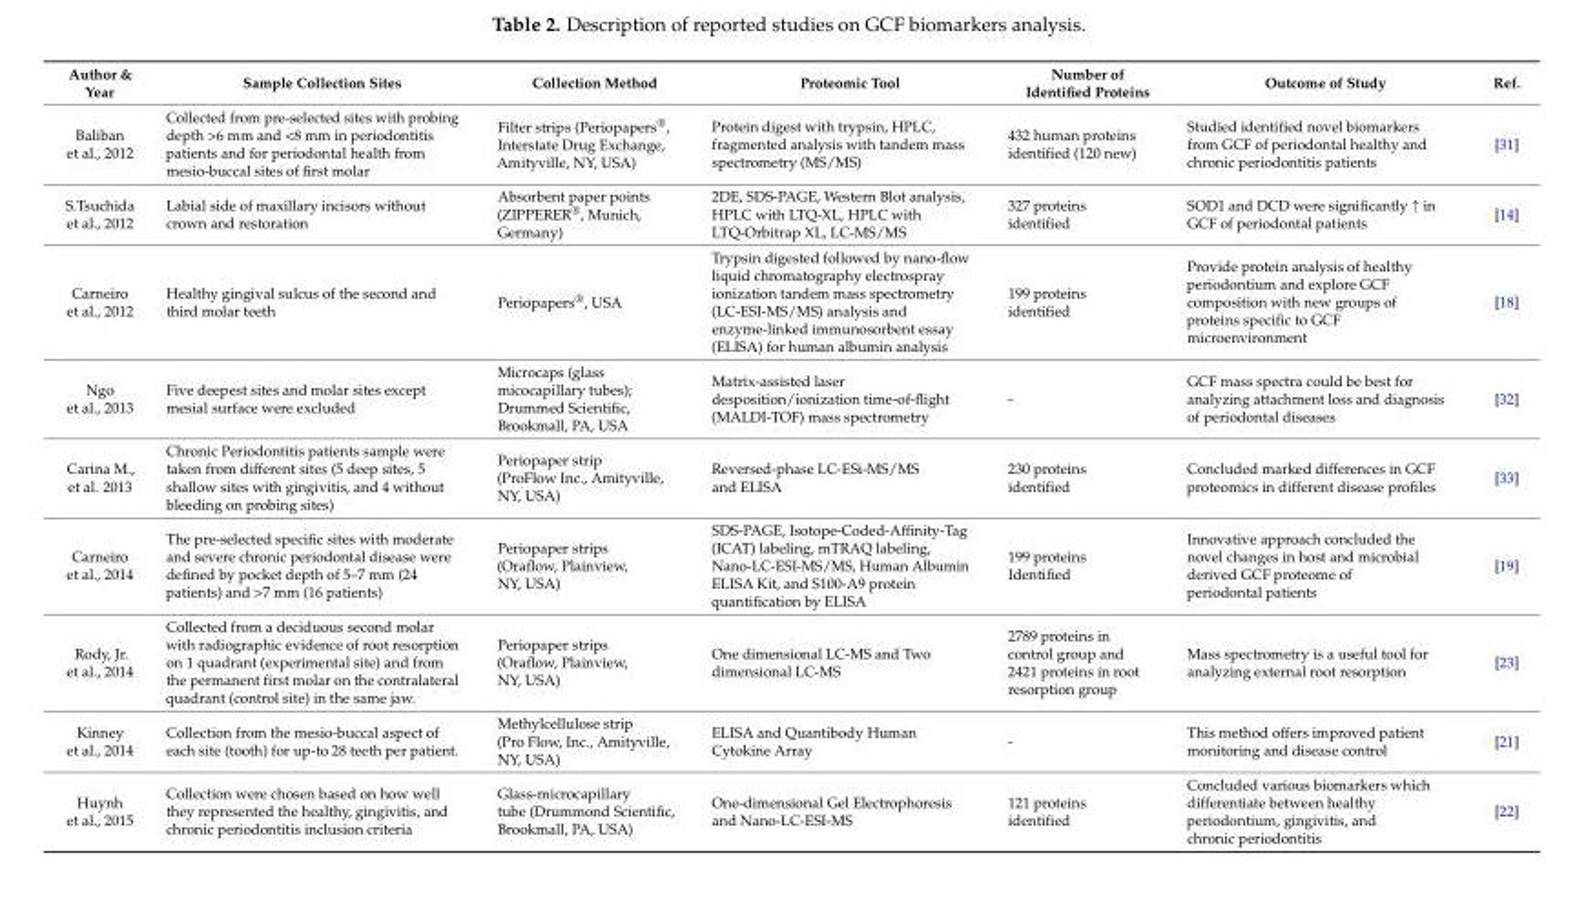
<table><thead><tr><td>Author &amp; Year</td><td>Sample Collection Sites</td><td>Collection Method</td><td>Proteomic Tool</td><td>Number of Identified Proteins</td><td>Outcome of Study</td><td>Ref.</td></tr></thead><tbody><tr><td>Baliban et al., 2012</td><td>Collected from pre-selected sites with probing depth &gt;6 mm and &lt;8 mm in periodontitis patients and for periodontal health from mesio-buccal sites of first molar</td><td>Filter strips (Periopapers<sup>®</sup>, Interstate Drug Exchange, Amityville, NY, USA)</td><td>Protein digest with trypsin, HPLC, fragmented analysis with tandem mass spectrometry (MS/MS)</td><td>432 human proteins identified (120 new)</td><td>Studied identified novel biomarkers from GCF of periodontal healthy and chronic periodontitis patients</td><td>[31]</td></tr><tr><td>S.Tsuchida et al., 2012</td><td>Labial side of maxillary incisors without crown and restoration</td><td>Absorbent paper points (ZIPPERER<sup>®</sup>, Munich, Germany)</td><td>2DE, SDS-PAGE, Western Blot analysis, HPLC with LTQ-XL, HPLC with LTQ-Orbitrap XL, LC-MS/MS</td><td>327 proteins identified</td><td>SOD1 and DCD were significantly ↑ in GCF of periodontal patients</td><td>[14]</td></tr><tr><td>Carneiro et al., 2012</td><td>Healthy gingival sulcus of the second and third molar teeth</td><td>Periopapers<sup>®</sup>, USA</td><td>Trypsin digested followed by nano-flow liquid chromatography electrospray ionization tandem mass spectrometry (LC-ESI-MS/MS) analysis and enzyme-linked immunosorbent essay (ELISA) for human albumin analysis</td><td>199 proteins identified</td><td>Provide protein analysis of healthy periodontium and explore GCF composition with new groups of proteins specific to GCF microenvironment</td><td>[18]</td></tr><tr><td>Ngo et al., 2013</td><td>Five deepest sites and molar sites except mesial surface were excluded</td><td>Microcaps (glass micocapillary tubes); Drummed Scientific, Brookmall, PA, USA</td><td>Matrix-assisted laser desposition/ionization time-of-flight (MALDI-TOF) mass spectrometry</td><td>-</td><td>GCF mass spectra could be best for analyzing attachment loss and diagnosis of periodontal diseases</td><td>[32]</td></tr><tr><td>Carina M., et al. 2013</td><td>Chronic Periodontitis patients sample were taken from different sites (5 deep sites, 5 shallow sites with gingivitis, and 4 without bleeding on probing sites)</td><td>Periopaper strip (ProFlow Inc., Amityville, NY, USA)</td><td>Reversed-phase LC-ESi-MS/MS and ELISA</td><td>230 proteins identified</td><td>Concluded marked differences in GCF proteomics in different disease profiles</td><td>[33]</td></tr><tr><td>Carneiro et al., 2014</td><td>The pre-selected specific sites with moderate and severe chronic periodontal disease were defined by pocket depth of 5–7 mm (24 patients) and &gt;7 mm (16 patients)</td><td>Periopaper strips (Oraflow, Plainview, NY, USA)</td><td>SDS-PAGE, Isotope-Coded-Affinity-Tag (ICAT) labeling, mTRAQ labeling, Nano-LC-ESI-MS/MS, Human Albumin ELISA Kit, and S100-A9 protein quantification by ELISA</td><td>199 proteins Identified</td><td>Innovative approach concluded the novel changes in host and microbial derived GCF proteome of periodontal patients</td><td>[19]</td></tr><tr><td>Rody, Jr. et al., 2014</td><td>Collected from a deciduous second molar with radiographic evidence of root resorption on 1 quadrant (experimental site) and from the permanent first molar on the contralateral quadrant (control site) in the same jaw.</td><td>Periopaper strips (Oraflow, Plainview, NY, USA)</td><td>One dimensional LC-MS and Two dimensional LC-MS</td><td>2789 proteins in control group and 2421 proteins in root resorption group</td><td>Mass spectrometry is a useful tool for analyzing external root resorption</td><td>[23]</td></tr><tr><td>Kinney et al., 2014</td><td>Collection from the mesio-buccal aspect of each site (tooth) for up-to 28 teeth per patient.</td><td>Methylcellulose strip (Pro Flow, Inc., Amityville, NY, USA)</td><td>ELISA and Quantibody Human Cytokine Array</td><td>-</td><td>This method offers improved patient monitoring and disease control</td><td>[21]</td></tr><tr><td>Huynh et al., 2015</td><td>Collection were chosen based on how well they represented the healthy, gingivitis, and chronic periodontitis inclusion criteria</td><td>Glass-microcapillary tube (Drummond Scientific, Brookmall, PA, USA)</td><td>One-dimensional Gel Electrophoresis and Nano-LC-ESI-MS</td><td>121 proteins identified</td><td>Concluded various biomarkers which differentiate between healthy periodontium, gingivitis, and chronic periodontitis</td><td>[22]</td></tr></tbody></table>